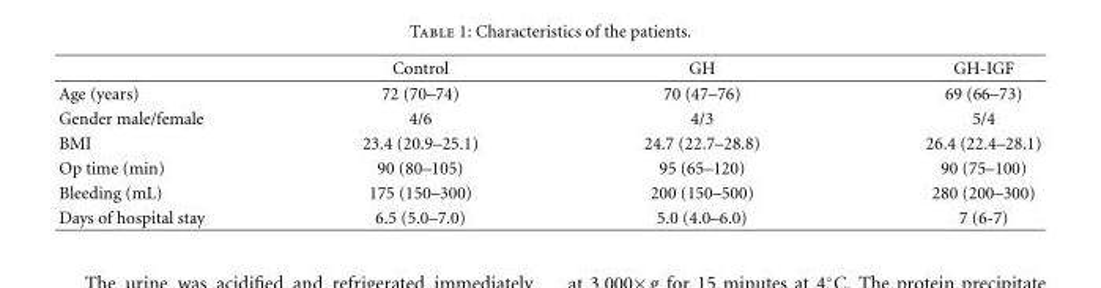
<table><thead><tr><td></td><td>Control</td><td>GH</td><td>GH-IGF</td></tr></thead><tbody><tr><td>Age (years)</td><td>72 (70–74)</td><td>70 (47–76)</td><td>69 (66–73)</td></tr><tr><td>Gender male/female</td><td>4/6</td><td>4/3</td><td>5/4</td></tr><tr><td>BMI</td><td>23.4 (20.9–25.1)</td><td>24.7 (22.7–28.8)</td><td>26.4 (22.4–28.1)</td></tr><tr><td>Op time (min)</td><td>90 (80–105)</td><td>95 (65–120)</td><td>90 (75–100)</td></tr><tr><td>Bleeding (mL)</td><td>175 (150–300)</td><td>200 (150–500)</td><td>280 (200–300)</td></tr><tr><td>Days of hospital stay</td><td>6.5 (5.0–7.0)</td><td>5.0 (4.0–6.0)</td><td>7 (6-7)</td></tr></tbody></table>